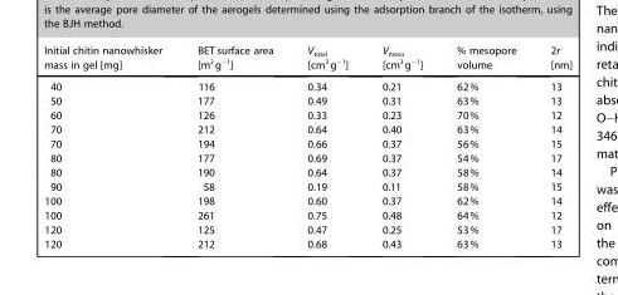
<table><thead><tr><td>Initial chitin nanowhisker mass in gel [mg]</td><td>BET surface area [m<sup>2</sup>g<sup>−1</sup>]</td><td>V<sub>total</sub> [cm<sup>3</sup>g<sup>−1</sup>]</td><td>V<sub>meso</sub> [cm<sup>3</sup>g<sup>−1</sup>]</td><td>% mesopore volume</td><td>2r [nm]</td></tr></thead><tbody><tr><td>40</td><td>116</td><td>0.34</td><td>0.21</td><td>62%</td><td>13</td></tr><tr><td>50</td><td>177</td><td>0.49</td><td>0.31</td><td>63%</td><td>13</td></tr><tr><td>60</td><td>126</td><td>0.33</td><td>0.23</td><td>70%</td><td>12</td></tr><tr><td>70</td><td>212</td><td>0.64</td><td>0.40</td><td>63%</td><td>14</td></tr><tr><td>70</td><td>194</td><td>0.66</td><td>0.37</td><td>56%</td><td>15</td></tr><tr><td>80</td><td>177</td><td>0.69</td><td>0.37</td><td>54%</td><td>17</td></tr><tr><td>80</td><td>190</td><td>0.64</td><td>0.37</td><td>58%</td><td>14</td></tr><tr><td>90</td><td>58</td><td>0.19</td><td>0.11</td><td>58%</td><td>15</td></tr><tr><td>100</td><td>198</td><td>0.60</td><td>0.37</td><td>62%</td><td>14</td></tr><tr><td>100</td><td>261</td><td>0.75</td><td>0.48</td><td>64%</td><td>12</td></tr><tr><td>120</td><td>125</td><td>0.47</td><td>0.25</td><td>53%</td><td>17</td></tr><tr><td>120</td><td>212</td><td>0.68</td><td>0.43</td><td>63%</td><td>13</td></tr></tbody></table>